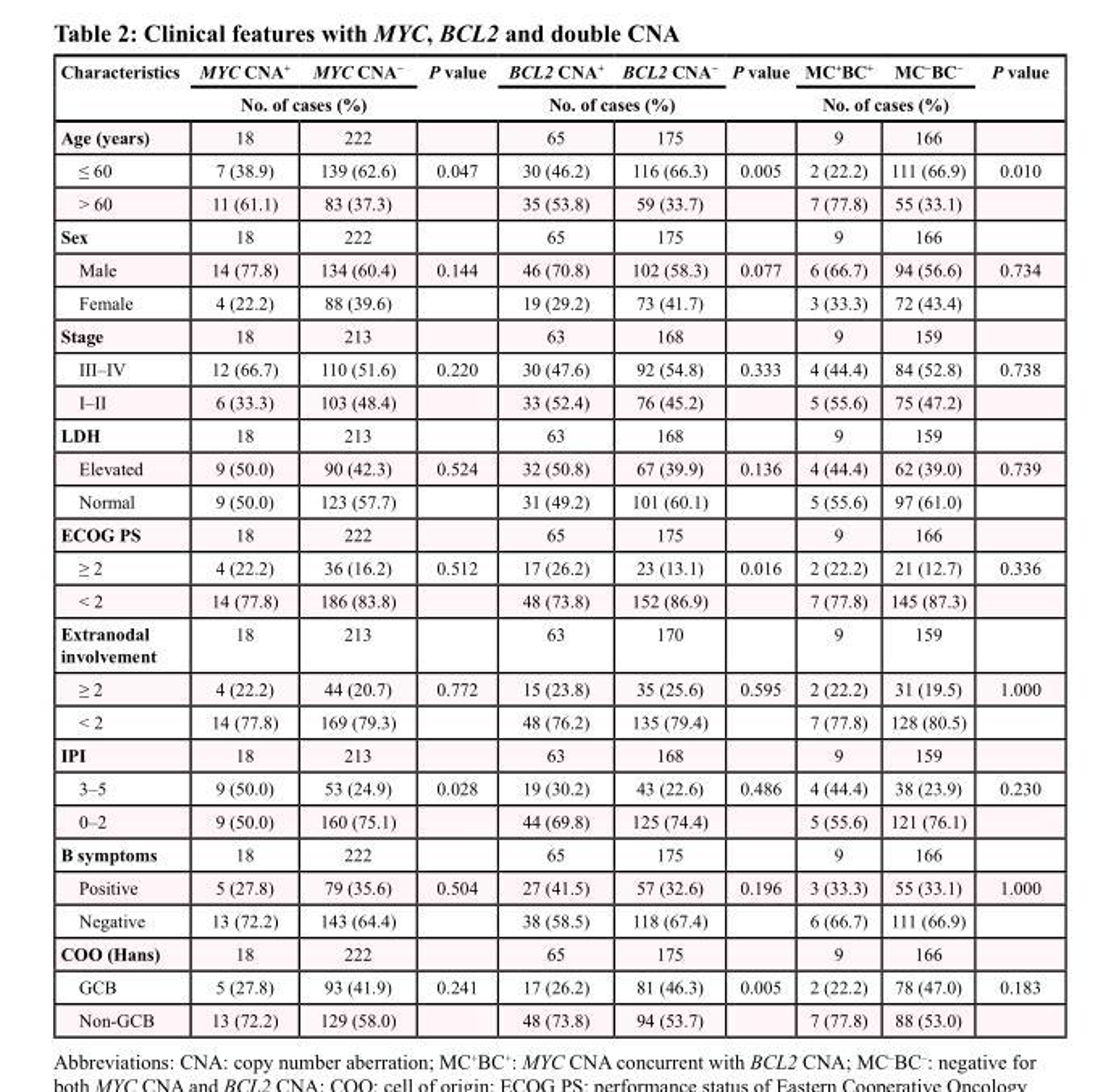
<table><thead><tr><td rowspan="2">Characteristics</td><td>MYC CNA<sup>+</sup></td><td>MYC CNA<sup>−</sup></td><td rowspan="2">P value</td><td>BCL2 CNA<sup>+</sup></td><td>BCL2 CNA<sup>−</sup></td><td rowspan="2">P value</td><td>MC<sup>+</sup>BC<sup>+</sup></td><td>MC<sup>−</sup>BC<sup>−</sup></td><td rowspan="2">P value</td></tr><tr><td colspan="2">No. of cases (%)</td><td colspan="2">No. of cases (%)</td><td colspan="2">No. of cases (%)</td></tr></thead><tbody><tr><td>Age (years)</td><td>18</td><td>222</td><td></td><td>65</td><td>175</td><td></td><td>9</td><td>166</td><td></td></tr><tr><td>≤ 60</td><td>7 (38.9)</td><td>139 (62.6)</td><td>0.047</td><td>30 (46.2)</td><td>116 (66.3)</td><td>0.005</td><td>2 (22.2)</td><td>111 (66.9)</td><td>0.010</td></tr><tr><td>&gt; 60</td><td>11 (61.1)</td><td>83 (37.3)</td><td></td><td>35 (53.8)</td><td>59 (33.7)</td><td></td><td>7 (77.8)</td><td>55 (33.1)</td><td></td></tr><tr><td>Sex</td><td>18</td><td>222</td><td></td><td>65</td><td>175</td><td></td><td>9</td><td>166</td><td></td></tr><tr><td>Male</td><td>14 (77.8)</td><td>134 (60.4)</td><td>0.144</td><td>46 (70.8)</td><td>102 (58.3)</td><td>0.077</td><td>6 (66.7)</td><td>94 (56.6)</td><td>0.734</td></tr><tr><td>Female</td><td>4 (22.2)</td><td>88 (39.6)</td><td></td><td>19 (29.2)</td><td>73 (41.7)</td><td></td><td>3 (33.3)</td><td>72 (43.4)</td><td></td></tr><tr><td>Stage</td><td>18</td><td>213</td><td></td><td>63</td><td>168</td><td></td><td>9</td><td>159</td><td></td></tr><tr><td>III–IV</td><td>12 (66.7)</td><td>110 (51.6)</td><td>0.220</td><td>30 (47.6)</td><td>92 (54.8)</td><td>0.333</td><td>4 (44.4)</td><td>84 (52.8)</td><td>0.738</td></tr><tr><td>I–II</td><td>6 (33.3)</td><td>103 (48.4)</td><td></td><td>33 (52.4)</td><td>76 (45.2)</td><td></td><td>5 (55.6)</td><td>75 (47.2)</td><td></td></tr><tr><td>LDH</td><td>18</td><td>213</td><td></td><td>63</td><td>168</td><td></td><td>9</td><td>159</td><td></td></tr><tr><td>Elevated</td><td>9 (50.0)</td><td>90 (42.3)</td><td>0.524</td><td>32 (50.8)</td><td>67 (39.9)</td><td>0.136</td><td>4 (44.4)</td><td>62 (39.0)</td><td>0.739</td></tr><tr><td>Normal</td><td>9 (50.0)</td><td>123 (57.7)</td><td></td><td>31 (49.2)</td><td>101 (60.1)</td><td></td><td>5 (55.6)</td><td>97 (61.0)</td><td></td></tr><tr><td>ECOG PS</td><td>18</td><td>222</td><td></td><td>65</td><td>175</td><td></td><td>9</td><td>166</td><td></td></tr><tr><td>≥ 2</td><td>4 (22.2)</td><td>36 (16.2)</td><td>0.512</td><td>17 (26.2)</td><td>23 (13.1)</td><td>0.016</td><td>2 (22.2)</td><td>21 (12.7)</td><td>0.336</td></tr><tr><td>&lt; 2</td><td>14 (77.8)</td><td>186 (83.8)</td><td></td><td>48 (73.8)</td><td>152 (86.9)</td><td></td><td>7 (77.8)</td><td>145 (87.3)</td><td></td></tr><tr><td>Extranodal involvement</td><td>18</td><td>213</td><td></td><td>63</td><td>170</td><td></td><td>9</td><td>159</td><td></td></tr><tr><td>≥ 2</td><td>4 (22.2)</td><td>44 (20.7)</td><td>0.772</td><td>15 (23.8)</td><td>35 (25.6)</td><td>0.595</td><td>2 (22.2)</td><td>31 (19.5)</td><td>1.000</td></tr><tr><td>&lt; 2</td><td>14 (77.8)</td><td>169 (79.3)</td><td></td><td>48 (76.2)</td><td>135 (79.4)</td><td></td><td>7 (77.8)</td><td>128 (80.5)</td><td></td></tr><tr><td>IPI</td><td>18</td><td>213</td><td></td><td>63</td><td>168</td><td></td><td>9</td><td>159</td><td></td></tr><tr><td>3–5</td><td>9 (50.0)</td><td>53 (24.9)</td><td>0.028</td><td>19 (30.2)</td><td>43 (22.6)</td><td>0.486</td><td>4 (44.4)</td><td>38 (23.9)</td><td>0.230</td></tr><tr><td>0–2</td><td>9 (50.0)</td><td>160 (75.1)</td><td></td><td>44 (69.8)</td><td>125 (74.4)</td><td></td><td>5 (55.6)</td><td>121 (76.1)</td><td></td></tr><tr><td>B symptoms</td><td>18</td><td>222</td><td></td><td>65</td><td>175</td><td></td><td>9</td><td>166</td><td></td></tr><tr><td>Positive</td><td>5 (27.8)</td><td>79 (35.6)</td><td>0.504</td><td>27 (41.5)</td><td>57 (32.6)</td><td>0.196</td><td>3 (33.3)</td><td>55 (33.1)</td><td>1.000</td></tr><tr><td>Negative</td><td>13 (72.2)</td><td>143 (64.4)</td><td></td><td>38 (58.5)</td><td>118 (67.4)</td><td></td><td>6 (66.7)</td><td>111 (66.9)</td><td></td></tr><tr><td>COO (Hans)</td><td>18</td><td>222</td><td></td><td>65</td><td>175</td><td></td><td>9</td><td>166</td><td></td></tr><tr><td>GCB</td><td>5 (27.8)</td><td>93 (41.9)</td><td>0.241</td><td>17 (26.2)</td><td>81 (46.3)</td><td>0.005</td><td>2 (22.2)</td><td>78 (47.0)</td><td>0.183</td></tr><tr><td>Non-GCB</td><td>13 (72.2)</td><td>129 (58.0)</td><td></td><td>48 (73.8)</td><td>94 (53.7)</td><td></td><td>7 (77.8)</td><td>88 (53.0)</td><td></td></tr></tbody></table>